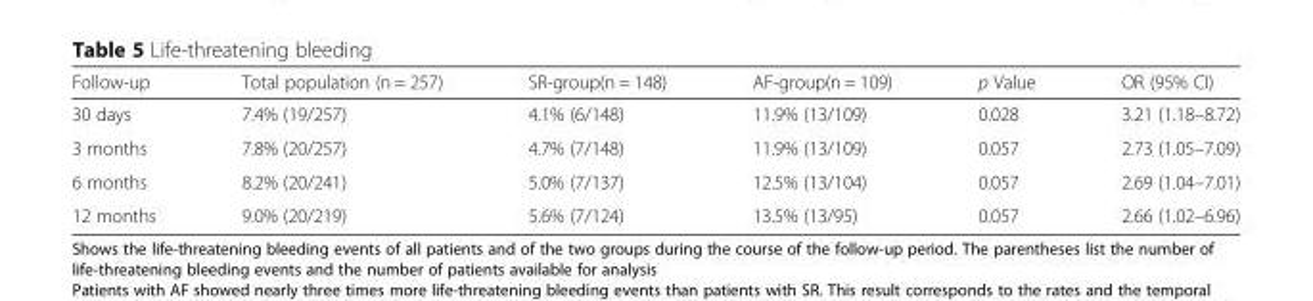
<table><thead><tr><td>Follow-up</td><td>Total population (n = 257)</td><td>SR-group(n = 148)</td><td>AF-group(n = 109)</td><td>p Value</td><td>OR (95% CI)</td></tr></thead><tbody><tr><td>30 days</td><td>7.4% (19/257)</td><td>4.1% (6/148)</td><td>11.9% (13/109)</td><td>0.028</td><td>3.21 (1.18–8.72)</td></tr><tr><td>3 months</td><td>7.8% (20/257)</td><td>4.7% (7/148)</td><td>11.9% (13/109)</td><td>0.057</td><td>2.73 (1.05–7.09)</td></tr><tr><td>6 months</td><td>8.2% (20/241)</td><td>5.0% (7/137)</td><td>12.5% (13/104)</td><td>0.057</td><td>2.69 (1.04–7.01)</td></tr><tr><td>12 months</td><td>9.0% (20/219)</td><td>5.6% (7/124)</td><td>13.5% (13/95)</td><td>0.057</td><td>2.66 (1.02–6.96)</td></tr></tbody></table>